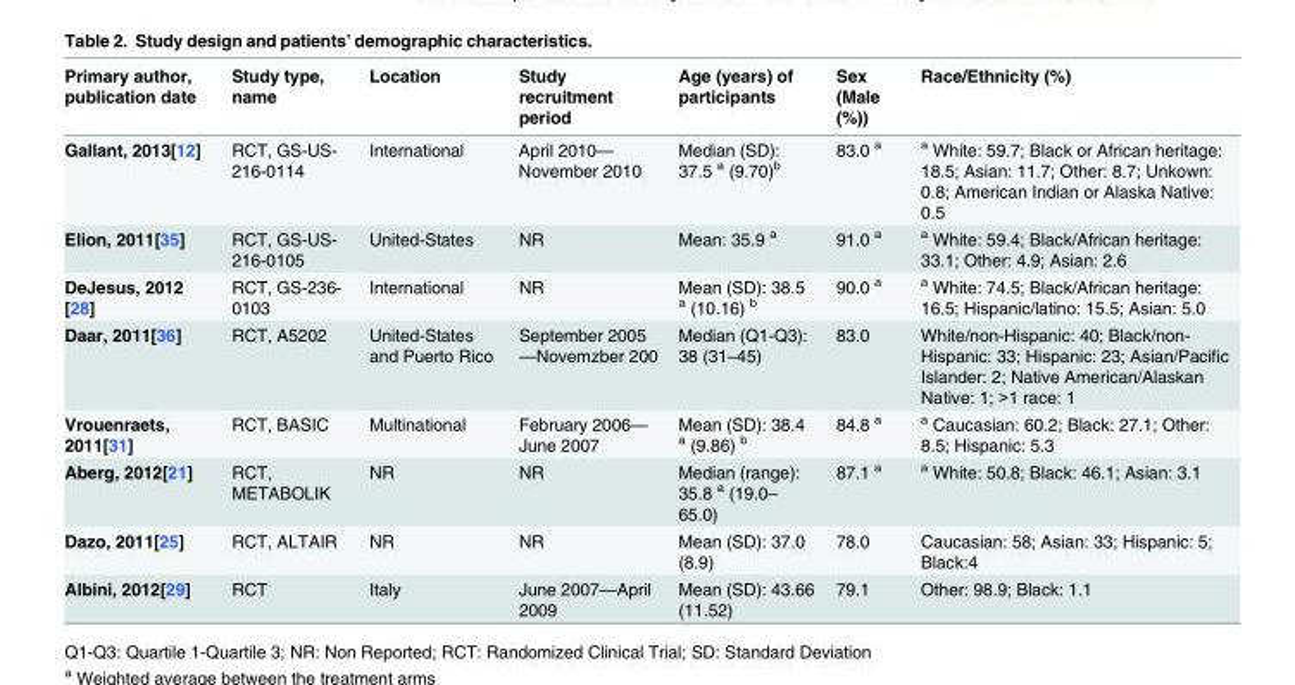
<table><thead><tr><td>Primary author, publication date</td><td>Study type, name</td><td>Location</td><td>Study recruitment period</td><td>Age (years) of participants</td><td>Sex (Male (%))</td><td>Race/Ethnicity (%)</td></tr></thead><tbody><tr><td>Gallant, 2013[12]</td><td>RCT, GS-US- 216-0114</td><td>International</td><td>April 2010— November 2010</td><td>Median (SD): 37.5 <sup>a</sup> (9.70)<sup>b</sup></td><td>83.0 <sup>a</sup></td><td><sup>a</sup> White: 59.7; Black or African heritage: 18.5; Asian: 11.7; Other: 8.7; Unkown: 0.8; American Indian or Alaska Native: 0.5</td></tr><tr><td>Elion, 2011[35]</td><td>RCT, GS-US- 216-0105</td><td>United-States</td><td>NR</td><td>Mean: 35.9 <sup>a</sup></td><td>91.0 <sup>a</sup></td><td><sup>a</sup> White: 59.4; Black/African heritage: 33.1; Other: 4.9; Asian: 2.6</td></tr><tr><td>DeJesus, 2012 [28]</td><td>RCT, GS-236- 0103</td><td>International</td><td>NR</td><td>Mean (SD): 38.5 <sup>a</sup> (10.16) <sup>b</sup></td><td>90.0 <sup>a</sup></td><td><sup>a</sup> White: 74.5; Black/African heritage: 16.5; Hispanic/latino: 15.5; Asian: 5.0</td></tr><tr><td>Daar, 2011[36]</td><td>RCT, A5202</td><td>United-States and Puerto Rico</td><td>September 2005 —Novemzber 200</td><td>Median (Q1-Q3): 38 (31–45)</td><td>83.0</td><td>White/non-Hispanic: 40; Black/non- Hispanic: 33; Hispanic: 23; Asian/Pacific Islander: 2; Native American/Alaskan Native: 1; &gt;1 race: 1</td></tr><tr><td>Vrouenraets, 2011[31]</td><td>RCT, BASIC</td><td>Multinational</td><td>February 2006— June 2007</td><td>Mean (SD): 38.4 <sup>a</sup> (9.86) <sup>b</sup></td><td>84.8 <sup>a</sup></td><td><sup>a</sup> Caucasian: 60.2; Black: 27.1; Other: 8.5; Hispanic: 5.3</td></tr><tr><td>Aberg, 2012[21]</td><td>RCT, METABOLIK</td><td>NR</td><td>NR</td><td>Median (range): 35.8 <sup>a</sup> (19.0– 65.0)</td><td>87.1 <sup>a</sup></td><td><sup>a</sup> White: 50.8; Black: 46.1; Asian: 3.1</td></tr><tr><td>Dazo, 2011[25]</td><td>RCT, ALTAIR</td><td>NR</td><td>NR</td><td>Mean (SD): 37.0 (8.9)</td><td>78.0</td><td>Caucasian: 58; Asian: 33; Hispanic: 5; Black:4</td></tr><tr><td>Albini, 2012[29]</td><td>RCT</td><td>Italy</td><td>June 2007—April 2009</td><td>Mean (SD): 43.66 (11.52)</td><td>79.1</td><td>Other: 98.9; Black: 1.1</td></tr></tbody></table>